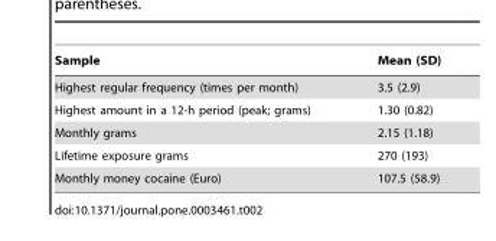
<table><thead><tr><td>Sample</td><td>Mean (SD)</td></tr></thead><tbody><tr><td>Highest regular frequency (times per month)</td><td>3.5 (2.9)</td></tr><tr><td>Highest amount in a 12-h period (peak; grams)</td><td>1.30 (0.82)</td></tr><tr><td>Monthly grams</td><td>2.15 (1.18)</td></tr><tr><td>Lifetime exposure grams</td><td>270 (193)</td></tr><tr><td>Monthly money cocaine (Euro)</td><td>107.5 (58.9)</td></tr></tbody></table>